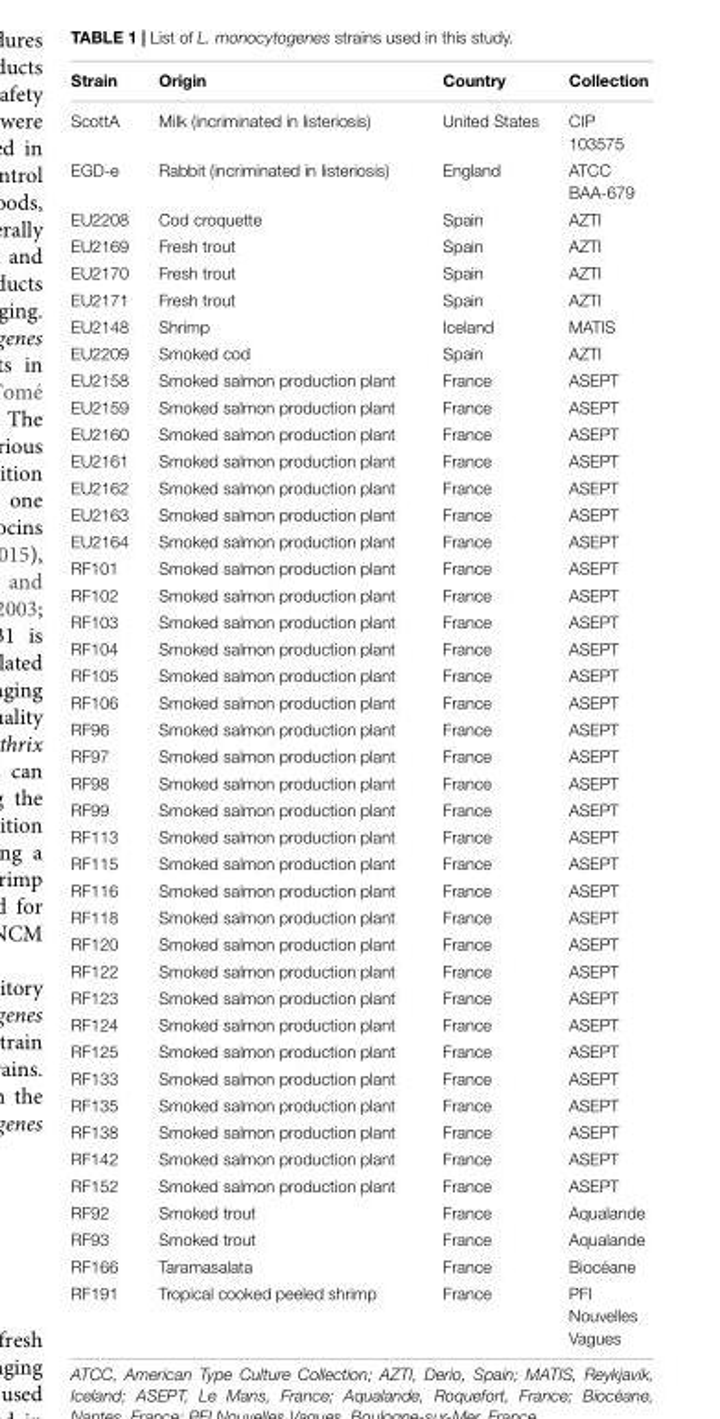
<table><thead><tr><td>Strain</td><td>Origin</td><td>Country</td><td>Collection</td></tr></thead><tbody><tr><td>ScottA</td><td>Milk (incriminated in listeriosis)</td><td>United States</td><td>CIP 103575</td></tr><tr><td>EGD-e</td><td>Rabbit (incriminated in listeriosis)</td><td>England</td><td>ATCC BAA-679</td></tr><tr><td>EU2208</td><td>Cod croquette</td><td>Spain</td><td>AZTI</td></tr><tr><td>EU2169</td><td>Fresh trout</td><td>Spain</td><td>AZTI</td></tr><tr><td>EU2170</td><td>Fresh trout</td><td>Spain</td><td>AZTI</td></tr><tr><td>EU2171</td><td>Fresh trout</td><td>Spain</td><td>AZTI</td></tr><tr><td>EU2148</td><td>Shrimp</td><td>Iceland</td><td>MATIS</td></tr><tr><td>EU2209</td><td>Smoked cod</td><td>Spain</td><td>AZTI</td></tr><tr><td>EU2158</td><td>Smoked salmon production plant</td><td>France</td><td>ASEPT</td></tr><tr><td>EU2159</td><td>Smoked salmon production plant</td><td>France</td><td>ASEPT</td></tr><tr><td>EU2160</td><td>Smoked salmon production plant</td><td>France</td><td>ASEPT</td></tr><tr><td>EU2161</td><td>Smoked salmon production plant</td><td>France</td><td>ASEPT</td></tr><tr><td>EU2162</td><td>Smoked salmon production plant</td><td>France</td><td>ASEPT</td></tr><tr><td>EU2163</td><td>Smoked salmon production plant</td><td>France</td><td>ASEPT</td></tr><tr><td>EU2164</td><td>Smoked salmon production plant</td><td>France</td><td>ASEPT</td></tr><tr><td>RF101</td><td>Smoked salmon production plant</td><td>France</td><td>ASEPT</td></tr><tr><td>RF102</td><td>Smoked salmon production plant</td><td>France</td><td>ASEPT</td></tr><tr><td>RF103</td><td>Smoked salmon production plant</td><td>France</td><td>ASEPT</td></tr><tr><td>RF104</td><td>Smoked salmon production plant</td><td>France</td><td>ASEPT</td></tr><tr><td>RF105</td><td>Smoked salmon production plant</td><td>France</td><td>ASEPT</td></tr><tr><td>RF106</td><td>Smoked salmon production plant</td><td>France</td><td>ASEPT</td></tr><tr><td>RF96</td><td>Smoked salmon production plant</td><td>France</td><td>ASEPT</td></tr><tr><td>RF97</td><td>Smoked salmon production plant</td><td>France</td><td>ASEPT</td></tr><tr><td>RF98</td><td>Smoked salmon production plant</td><td>France</td><td>ASEPT</td></tr><tr><td>RF99</td><td>Smoked salmon production plant</td><td>France</td><td>ASEPT</td></tr><tr><td>RF113</td><td>Smoked salmon production plant</td><td>France</td><td>ASEPT</td></tr><tr><td>RF115</td><td>Smoked salmon production plant</td><td>France</td><td>ASEPT</td></tr><tr><td>RF116</td><td>Smoked salmon production plant</td><td>France</td><td>ASEPT</td></tr><tr><td>RF118</td><td>Smoked salmon production plant</td><td>France</td><td>ASEPT</td></tr><tr><td>RF120</td><td>Smoked salmon production plant</td><td>France</td><td>ASEPT</td></tr><tr><td>RF122</td><td>Smoked salmon production plant</td><td>France</td><td>ASEPT</td></tr><tr><td>RF123</td><td>Smoked salmon production plant</td><td>France</td><td>ASEPT</td></tr><tr><td>RF124</td><td>Smoked salmon production plant</td><td>France</td><td>ASEPT</td></tr><tr><td>RF125</td><td>Smoked salmon production plant</td><td>France</td><td>ASEPT</td></tr><tr><td>RF133</td><td>Smoked salmon production plant</td><td>France</td><td>ASEPT</td></tr><tr><td>RF135</td><td>Smoked salmon production plant</td><td>France</td><td>ASEPT</td></tr><tr><td>RF138</td><td>Smoked salmon production plant</td><td>France</td><td>ASEPT</td></tr><tr><td>RF142</td><td>Smoked salmon production plant</td><td>France</td><td>ASEPT</td></tr><tr><td>RF152</td><td>Smoked salmon production plant</td><td>France</td><td>ASEPT</td></tr><tr><td>RF92</td><td>Smoked trout</td><td>France</td><td>Aqualande</td></tr><tr><td>RF93</td><td>Smoked trout</td><td>France</td><td>Aqualande</td></tr><tr><td>RF166</td><td>Taramasalata</td><td>France</td><td>Biocéane</td></tr><tr><td>RF191</td><td>Tropical cooked peeled shrimp</td><td>France</td><td>PFI Nouvelles Vagues</td></tr></tbody></table>